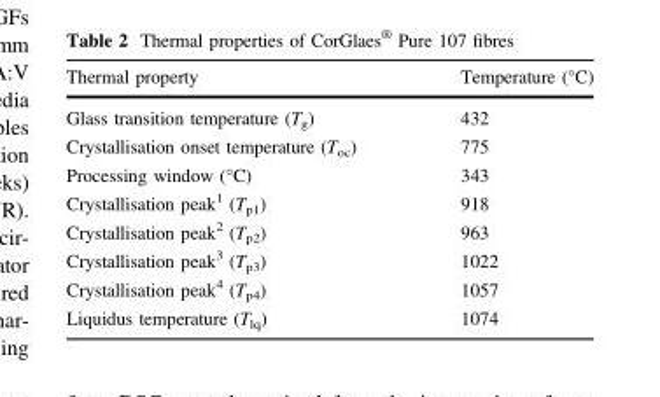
<table><thead><tr><td>Thermal property</td><td>Temperature (°C)</td></tr></thead><tbody><tr><td>Glass transition temperature (T<sub>g</sub>)</td><td>432</td></tr><tr><td>Crystallisation onset temperature (T<sub>oc</sub>)</td><td>775</td></tr><tr><td>Processing window (°C)</td><td>343</td></tr><tr><td>Crystallisation peak<sup>1</sup> (T<sub>p1</sub>)</td><td>918</td></tr><tr><td>Crystallisation peak<sup>2</sup> (T<sub>p2</sub>)</td><td>963</td></tr><tr><td>Crystallisation peak<sup>3</sup> (T<sub>p3</sub>)</td><td>1022</td></tr><tr><td>Crystallisation peak<sup>4</sup> (T<sub>p4</sub>)</td><td>1057</td></tr><tr><td>Liquidus temperature (T<sub>lq</sub>)</td><td>1074</td></tr></tbody></table>